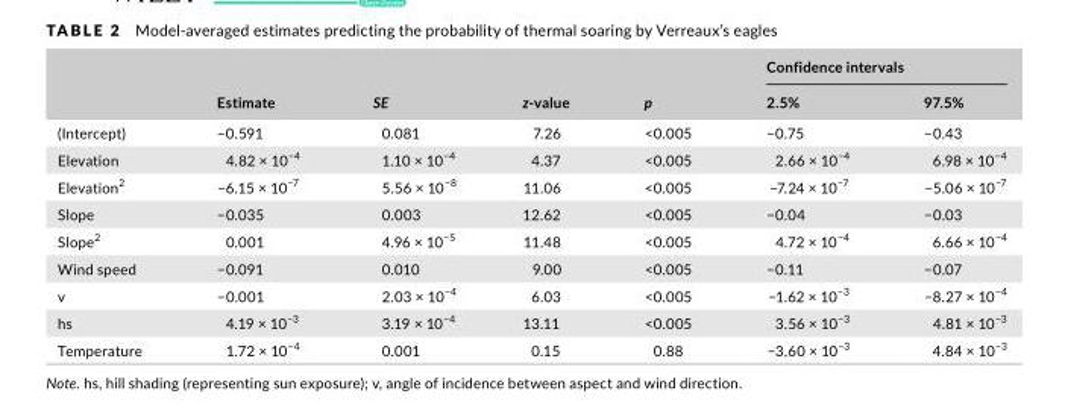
<table><thead><tr><td rowspan="2"></td><td rowspan="2">Estimate</td><td rowspan="2">SE</td><td rowspan="2">z- value</td><td rowspan="2">p</td><td colspan="2">Confidence intervals</td></tr><tr><td>2.5%</td><td>97.5%</td></tr></thead><tbody><tr><td>(Intercept)</td><td>−0.591</td><td>0.081</td><td>7.26</td><td>&lt;0.005</td><td>−0.75</td><td>−0.43</td></tr><tr><td>Elevation</td><td>4.82 × 10<sup>−4</sup></td><td>1.10 × 10<sup>−4</sup></td><td>4.37</td><td>&lt;0.005</td><td>2.66 × 10<sup>−4</sup></td><td>6.98 × 10<sup>−4</sup></td></tr><tr><td>Elevation<sup>2</sup></td><td>−6.15 × 10<sup>−7</sup></td><td>5.56 × 10<sup>−8</sup></td><td>11.06</td><td>&lt;0.005</td><td>−7.24 × 10<sup>−7</sup></td><td>−5.06 × 10<sup>−7</sup></td></tr><tr><td>Slope</td><td>−0.035</td><td>0.003</td><td>12.62</td><td>&lt;0.005</td><td>−0.04</td><td>−0.03</td></tr><tr><td>Slope<sup>2</sup></td><td>0.001</td><td>4.96 × 10<sup>−5</sup></td><td>11.48</td><td>&lt;0.005</td><td>4.72 × 10<sup>−4</sup></td><td>6.66 × 10<sup>−4</sup></td></tr><tr><td>Wind speed</td><td>−0.091</td><td>0.010</td><td>9.00</td><td>&lt;0.005</td><td>−0.11</td><td>−0.07</td></tr><tr><td>v</td><td>−0.001</td><td>2.03 × 10<sup>−4</sup></td><td>6.03</td><td>&lt;0.005</td><td>−1.62 × 10<sup>−3</sup></td><td>−8.27 × 10<sup>−4</sup></td></tr><tr><td>hs</td><td>4.19 × 10<sup>−3</sup></td><td>3.19 × 10<sup>−4</sup></td><td>13.11</td><td>&lt;0.005</td><td>3.56 × 10<sup>−3</sup></td><td>4.81 × 10<sup>−3</sup></td></tr><tr><td>Temperature</td><td>1.72 × 10<sup>−4</sup></td><td>0.001</td><td>0.15</td><td>0.88</td><td>−3.60 × 10<sup>−3</sup></td><td>4.84 × 10<sup>−3</sup></td></tr></tbody></table>